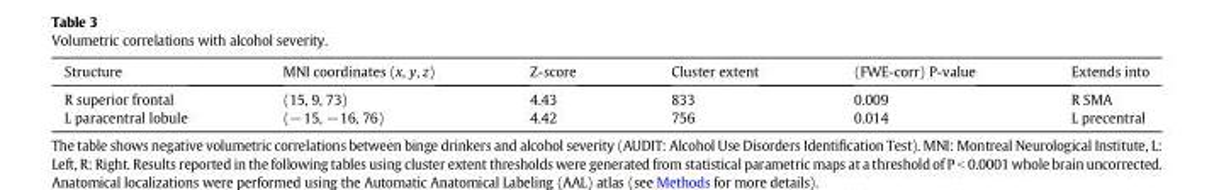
<table><thead><tr><td>Structure</td><td>MNI coordinates (x, y, z)</td><td>Z-score</td><td>Cluster extent</td><td>(FWE-corr) P-value</td><td>Extends into</td></tr></thead><tbody><tr><td>R superior frontal</td><td>(15, 9, 73)</td><td>4.43</td><td>833</td><td>0.009</td><td>R SMA</td></tr><tr><td>L paracentral lobule</td><td>(−15, −16, 76)</td><td>4.42</td><td>756</td><td>0.014</td><td>L precentral</td></tr></tbody></table>